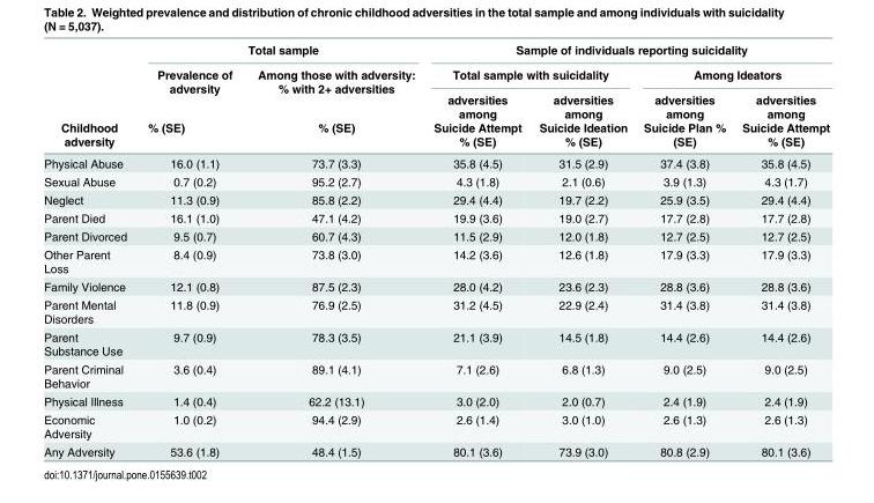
<table><thead><tr><td rowspan="4">Childhood adversity</td><td colspan="2">Total sample</td><td colspan="4">Sample of individuals reporting suicidality</td></tr><tr><td rowspan="3">Prevalence of adversity % (SE)</td><td rowspan="3">Among those with adversity: % with 2+ adversities % (SE)</td><td colspan="2">Total sample with suicidality</td><td colspan="2">Among Ideators</td></tr><tr><td rowspan="2">adversities among Suicide Attempt % (SE)</td><td rowspan="2">adversities among Suicide Ideation % (SE)</td><td rowspan="2">adversities among Suicide Plan % (SE)</td><td rowspan="2">adversities among Suicide Attempt % (SE)</td></tr><tr></tr></thead><tbody><tr><td>Physical Abuse</td><td>16.0 (1.1)</td><td>73.7 (3.3)</td><td>35.8 (4.5)</td><td>31.5 (2.9)</td><td>37.4 (3.8)</td><td>35.8 (4.5)</td></tr><tr><td>Sexual Abuse</td><td>0.7 (0.2)</td><td>95.2 (2.7)</td><td>4.3 (1.8)</td><td>2.1 (0.6)</td><td>3.9 (1.3)</td><td>4.3 (1.7)</td></tr><tr><td>Neglect</td><td>11.3 (0.9)</td><td>85.8 (2.2)</td><td>29.4 (4.4)</td><td>19.7 (2.2)</td><td>25.9 (3.5)</td><td>29.4 (4.4)</td></tr><tr><td>Parent Died</td><td>16.1 (1.0)</td><td>47.1 (4.2)</td><td>19.9 (3.6)</td><td>19.0 (2.7)</td><td>17.7 (2.8)</td><td>17.7 (2.8)</td></tr><tr><td>Parent Divorced</td><td>9.5 (0.7)</td><td>60.7 (4.3)</td><td>11.5 (2.9)</td><td>12.0 (1.8)</td><td>12.7 (2.5)</td><td>12.7 (2.5)</td></tr><tr><td>Other Parent Loss</td><td>8.4 (0.9)</td><td>73.8 (3.0)</td><td>14.2 (3.6)</td><td>12.6 (1.8)</td><td>17.9 (3.3)</td><td>17.9 (3.3)</td></tr><tr><td>Family Violence</td><td>12.1 (0.8)</td><td>87.5 (2.3)</td><td>28.0 (4.2)</td><td>23.6 (2.3)</td><td>28.8 (3.6)</td><td>28.8 (3.6)</td></tr><tr><td>Parent Mental Disorders</td><td>11.8 (0.9)</td><td>76.9 (2.5)</td><td>31.2 (4.5)</td><td>22.9 (2.4)</td><td>31.4 (3.8)</td><td>31.4 (3.8)</td></tr><tr><td>Parent Substance Use</td><td>9.7 (0.9)</td><td>78.3 (3.5)</td><td>21.1 (3.9)</td><td>14.5 (1.8)</td><td>14.4 (2.6)</td><td>14.4 (2.6)</td></tr><tr><td>Parent Criminal Behavior</td><td>3.6 (0.4)</td><td>89.1 (4.1)</td><td>7.1 (2.6)</td><td>6.8 (1.3)</td><td>9.0 (2.5)</td><td>9.0 (2.5)</td></tr><tr><td>Physical Illness</td><td>1.4 (0.4)</td><td>62.2 (13.1)</td><td>3.0 (2.0)</td><td>2.0 (0.7)</td><td>2.4 (1.9)</td><td>2.4 (1.9)</td></tr><tr><td>Economic Adversity</td><td>1.0 (0.2)</td><td>94.4 (2.9)</td><td>2.6 (1.4)</td><td>3.0 (1.0)</td><td>2.6 (1.3)</td><td>2.6 (1.3)</td></tr><tr><td>Any Adversity</td><td>53.6 (1.8)</td><td>48.4 (1.5)</td><td>80.1 (3.6)</td><td>73.9 (3.0)</td><td>80.8 (2.9)</td><td>80.1 (3.6)</td></tr></tbody></table>